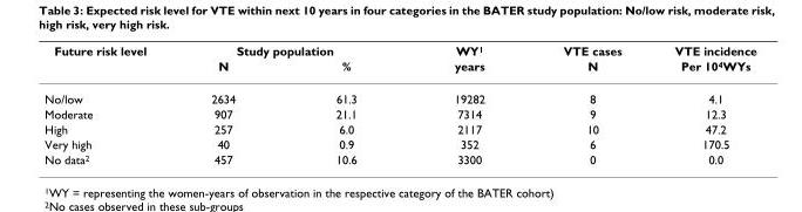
<table><thead><tr><td rowspan="2">Future risk level</td><td colspan="2">Study population</td><td rowspan="2">WY<sup>1</sup> years</td><td rowspan="2">VTE cases N</td><td rowspan="2">VTE incidence Per 10<sup>4</sup>WYs</td></tr><tr><td>N</td><td>%</td></tr></thead><tbody><tr><td>No/low</td><td>2634</td><td>61.3</td><td>19282</td><td>8</td><td>4.1</td></tr><tr><td>Moderate</td><td>907</td><td>21.1</td><td>7314</td><td>9</td><td>12.3</td></tr><tr><td>High</td><td>257</td><td>6.0</td><td>2117</td><td>10</td><td>47.2</td></tr><tr><td>Very high</td><td>40</td><td>0.9</td><td>352</td><td>6</td><td>170.5</td></tr><tr><td>No data<sup>2</sup></td><td>457</td><td>10.6</td><td>3300</td><td>0</td><td>0.0</td></tr></tbody></table>